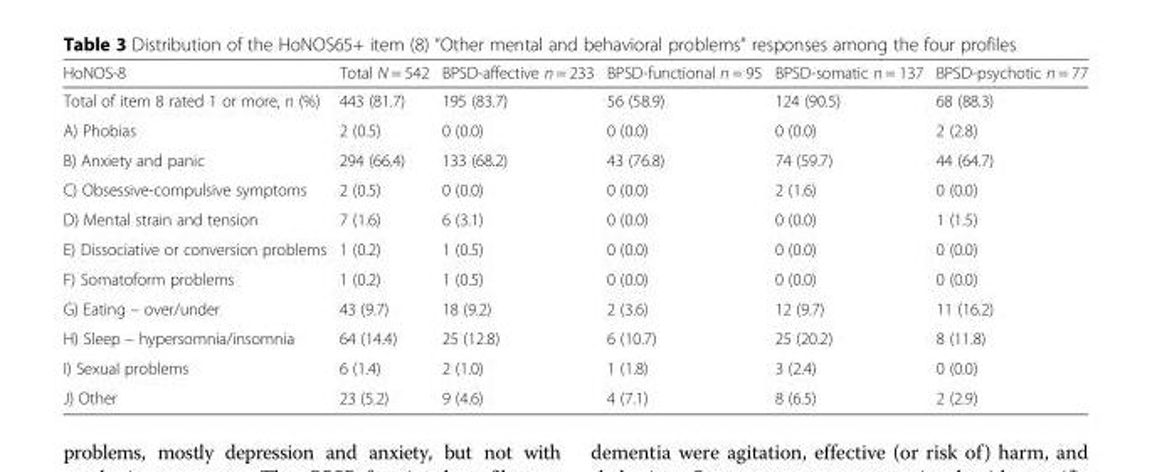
<table><thead><tr><td>HoNOS-8</td><td>Total N = 542</td><td>BPSD-affective n = 233</td><td>BPSD-functional n = 95</td><td>BPSD-somatic n = 137</td><td>BPSD-psychotic n = 77</td></tr></thead><tbody><tr><td>Total of item 8 rated 1 or more, n (%)</td><td>443 (81.7)</td><td>195 (83.7)</td><td>56 (58.9)</td><td>124 (90.5)</td><td>68 (88.3)</td></tr><tr><td>A) Phobias</td><td>2 (0.5)</td><td>0 (0.0)</td><td>0 (0.0)</td><td>0 (0.0)</td><td>2 (2.8)</td></tr><tr><td>B) Anxiety and panic</td><td>294 (66.4)</td><td>133 (68.2)</td><td>43 (76.8)</td><td>74 (59.7)</td><td>44 (64.7)</td></tr><tr><td>C) Obsessive-compulsive symptoms</td><td>2 (0.5)</td><td>0 (0.0)</td><td>0 (0.0)</td><td>2 (1.6)</td><td>0 (0.0)</td></tr><tr><td>D) Mental strain and tension</td><td>7 (1.6)</td><td>6 (3.1)</td><td>0 (0.0)</td><td>0 (0.0)</td><td>1 (1.5)</td></tr><tr><td>E) Dissociative or conversion problems</td><td>1 (0.2)</td><td>1 (0.5)</td><td>0 (0.0)</td><td>0 (0.0)</td><td>0 (0.0)</td></tr><tr><td>F) Somatoform problems</td><td>1 (0.2)</td><td>1 (0.5)</td><td>0 (0.0)</td><td>0 (0.0)</td><td>0 (0.0)</td></tr><tr><td>G) Eating – over/under</td><td>43 (9.7)</td><td>18 (9.2)</td><td>2 (3.6)</td><td>12 (9.7)</td><td>11 (16.2)</td></tr><tr><td>H) Sleep – hypersomnia/insomnia</td><td>64 (14.4)</td><td>25 (12.8)</td><td>6 (10.7)</td><td>25 (20.2)</td><td>8 (11.8)</td></tr><tr><td>I) Sexual problems</td><td>6 (1.4)</td><td>2 (1.0)</td><td>1 (1.8)</td><td>3 (2.4)</td><td>0 (0.0)</td></tr><tr><td>J) Other</td><td>23 (5.2)</td><td>9 (4.6)</td><td>4 (7.1)</td><td>8 (6.5)</td><td>2 (2.9)</td></tr></tbody></table>